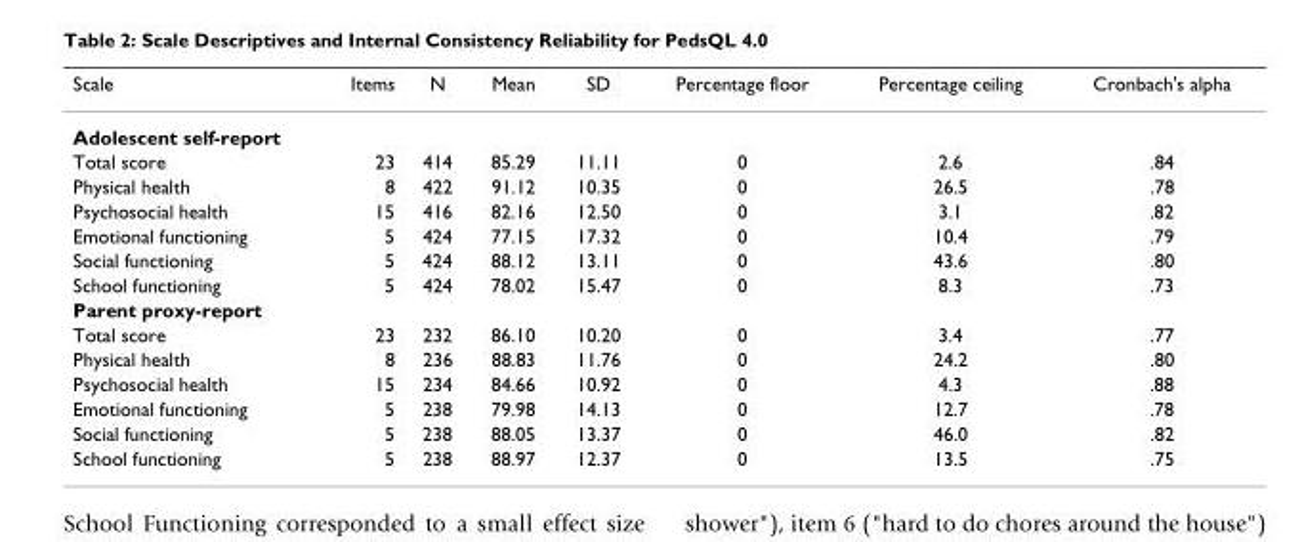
<table><thead><tr><td>Scale</td><td>Items</td><td>N</td><td>Mean</td><td>SD</td><td>Percentage floor</td><td>Percentage ceiling</td><td>Cronbach&#x27;s alpha</td></tr></thead><tbody><tr><td colspan="8">Adolescent self-report</td></tr><tr><td>Total score</td><td>23</td><td>414</td><td>85.29</td><td>11.11</td><td>0</td><td>2.6</td><td>.84</td></tr><tr><td>Physical health</td><td>8</td><td>422</td><td>91.12</td><td>10.35</td><td>0</td><td>26.5</td><td>.78</td></tr><tr><td>Psychosocial health</td><td>15</td><td>416</td><td>82.16</td><td>12.50</td><td>0</td><td>3.1</td><td>.82</td></tr><tr><td>Emotional functioning</td><td>5</td><td>424</td><td>77.15</td><td>17.32</td><td>0</td><td>10.4</td><td>.79</td></tr><tr><td>Social functioning</td><td>5</td><td>424</td><td>88.12</td><td>13.11</td><td>0</td><td>43.6</td><td>.80</td></tr><tr><td>School functioning</td><td>5</td><td>424</td><td>78.02</td><td>15.47</td><td>0</td><td>8.3</td><td>.73</td></tr><tr><td colspan="8">Parent proxy-report</td></tr><tr><td>Total score</td><td>23</td><td>232</td><td>86.10</td><td>10.20</td><td>0</td><td>3.4</td><td>.77</td></tr><tr><td>Physical health</td><td>8</td><td>236</td><td>88.83</td><td>11.76</td><td>0</td><td>24.2</td><td>.80</td></tr><tr><td>Psychosocial health</td><td>15</td><td>234</td><td>84.66</td><td>10.92</td><td>0</td><td>4.3</td><td>.88</td></tr><tr><td>Emotional functioning</td><td>5</td><td>238</td><td>79.98</td><td>14.13</td><td>0</td><td>12.7</td><td>.78</td></tr><tr><td>Social functioning</td><td>5</td><td>238</td><td>88.05</td><td>13.37</td><td>0</td><td>46.0</td><td>.82</td></tr><tr><td>School functioning</td><td>5</td><td>238</td><td>88.97</td><td>12.37</td><td>0</td><td>13.5</td><td>.75</td></tr></tbody></table>